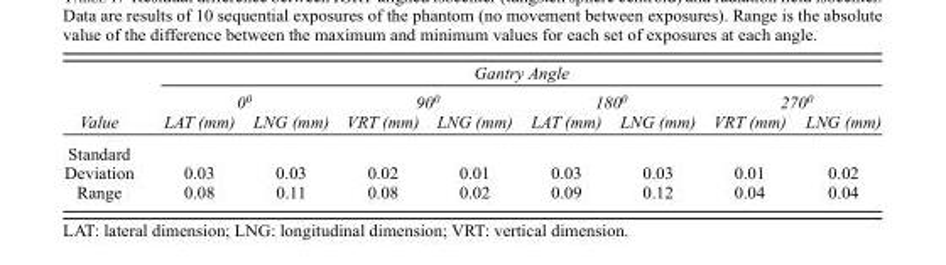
<table><thead><tr><td rowspan="3">Value</td><td colspan="8">Gantry Angle</td></tr><tr><td colspan="2">0<sup>0</sup></td><td colspan="2">90<sup>0</sup></td><td colspan="2">180<sup>0</sup></td><td colspan="2">270<sup>0</sup></td></tr><tr><td>LAT (mm)</td><td>LNG (mm)</td><td>VRT (mm)</td><td>LNG (mm)</td><td>LAT (mm)</td><td>LNG (mm)</td><td>VRT (mm)</td><td>LNG (mm)</td></tr></thead><tbody><tr><td>Standard Deviation</td><td>0.03</td><td>0.03</td><td>0.02</td><td>0.01</td><td>0.03</td><td>0.03</td><td>0.01</td><td>0.02</td></tr><tr><td>Range</td><td>0.08</td><td>0.11</td><td>0.08</td><td>0.02</td><td>0.09</td><td>0.12</td><td>0.04</td><td>0.04</td></tr></tbody></table>